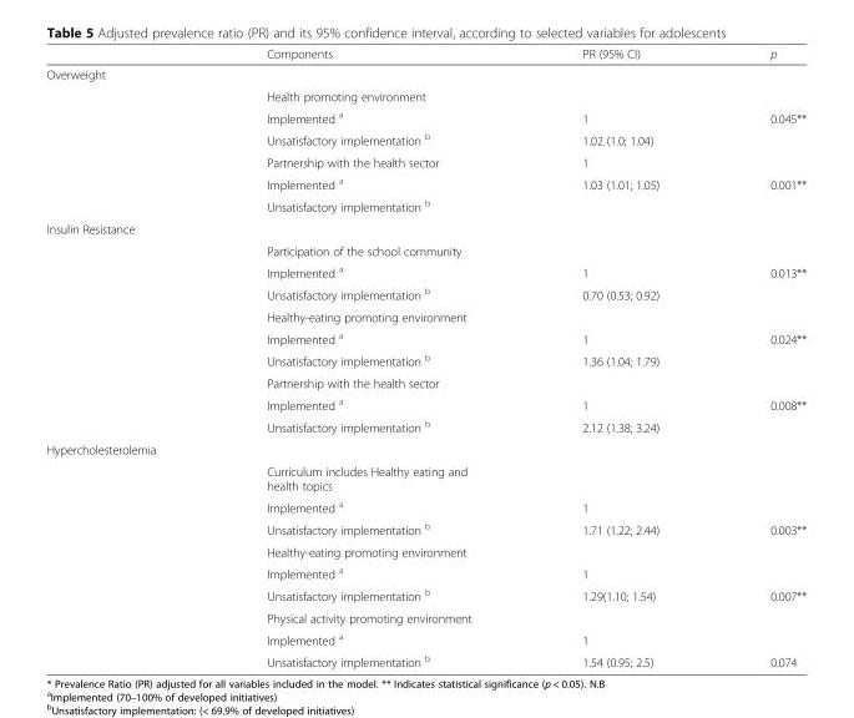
<table><thead><tr><td></td><td>Components</td><td>PR (95% CI)</td><td>p</td></tr></thead><tbody><tr><td colspan="4">Overweight</td></tr><tr><td></td><td>Health promoting environment</td><td></td><td></td></tr><tr><td></td><td>Implemented <sup>a</sup></td><td>1</td><td rowspan="2">0.045**</td></tr><tr><td></td><td>Unsatisfactory implementation <sup>b</sup></td><td>1.02 (1.0; 1.04)</td></tr><tr><td></td><td>Partnership with the health sector</td><td>1</td><td></td></tr><tr><td></td><td>Implemented <sup>a</sup></td><td>1.03 (1.01; 1.05)</td><td rowspan="2">0.001**</td></tr><tr><td></td><td>Unsatisfactory implementation <sup>b</sup></td><td></td></tr><tr><td colspan="4">Insulin Resistance</td></tr><tr><td></td><td>Participation of the school community</td><td></td><td></td></tr><tr><td></td><td>Implemented <sup>a</sup></td><td>1</td><td rowspan="2">0.013**</td></tr><tr><td></td><td>Unsatisfactory implementation <sup>b</sup></td><td>0.70 (0.53; 0.92)</td></tr><tr><td></td><td>Healthy-eating promoting environment</td><td></td><td></td></tr><tr><td></td><td>Implemented <sup>a</sup></td><td>1</td><td rowspan="2">0.024**</td></tr><tr><td></td><td>Unsatisfactory implementation <sup>b</sup></td><td>1.36 (1.04; 1.79)</td></tr><tr><td></td><td>Partnership with the health sector</td><td></td><td></td></tr><tr><td></td><td>Implemented <sup>a</sup></td><td>1</td><td rowspan="2">0.008**</td></tr><tr><td></td><td>Unsatisfactory implementation <sup>b</sup></td><td>2.12 (1.38; 3.24)</td></tr><tr><td colspan="4">Hypercholesterolemia</td></tr><tr><td></td><td>Curriculum includes Healthy eating and health topics</td><td></td><td></td></tr><tr><td></td><td>Implemented <sup>a</sup></td><td>1</td><td></td></tr><tr><td></td><td>Unsatisfactory implementation <sup>b</sup></td><td>1.71 (1.22; 2.44)</td><td>0.003**</td></tr><tr><td></td><td>Healthy-eating promoting environment</td><td></td><td></td></tr><tr><td></td><td>Implemented <sup>a</sup></td><td>1</td><td></td></tr><tr><td></td><td>Unsatisfactory implementation <sup>b</sup></td><td>1.29(1.10; 1.54)</td><td>0.007**</td></tr><tr><td></td><td>Physical activity promoting environment</td><td></td><td></td></tr><tr><td></td><td>Implemented <sup>a</sup></td><td>1</td><td></td></tr><tr><td></td><td>Unsatisfactory implementation <sup>b</sup></td><td>1.54 (0.95; 2.5)</td><td>0.074</td></tr></tbody></table>